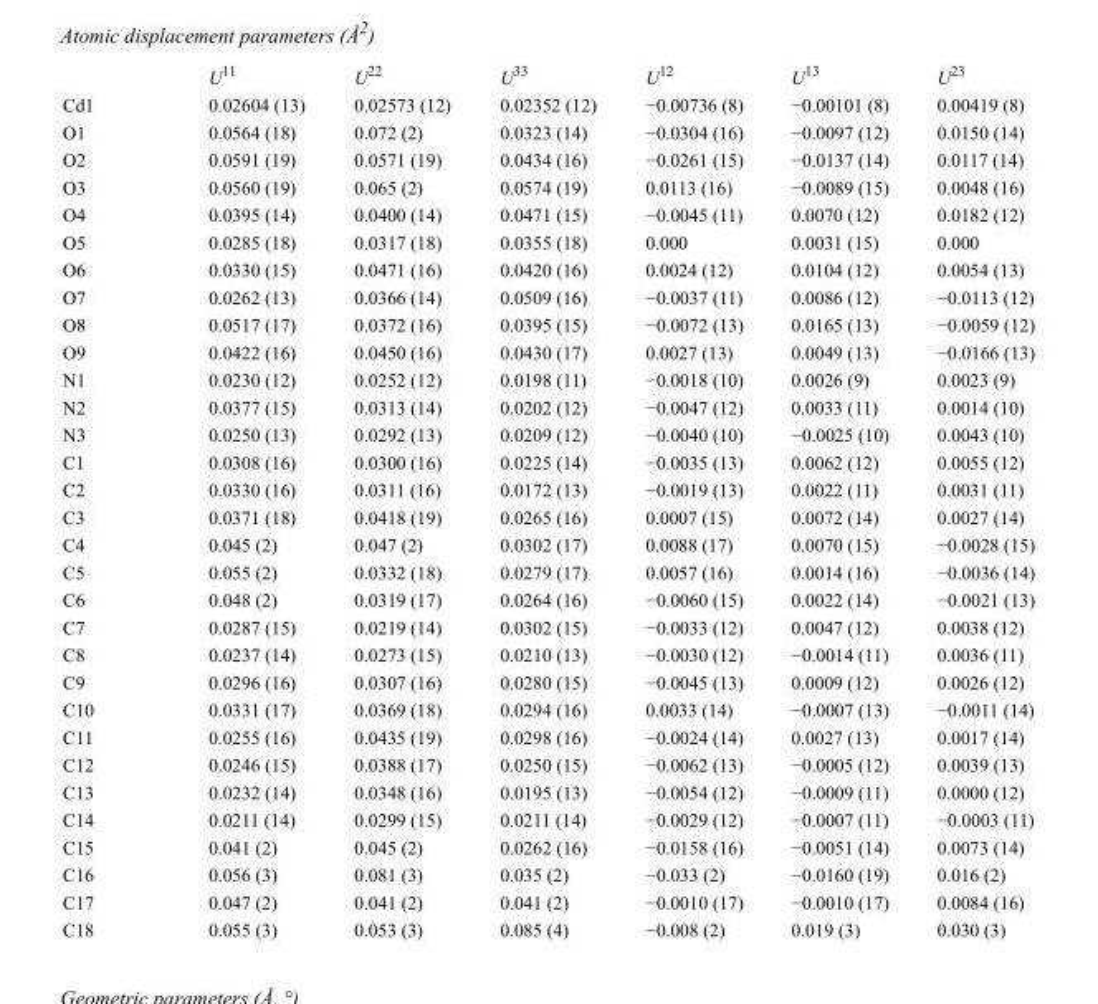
<table><thead><tr><td></td><td>U<sup>11</sup></td><td>U<sup>22</sup></td><td>U<sup>33</sup></td><td>U<sup>12</sup></td><td>U<sup>13</sup></td><td>U<sup>23</sup></td></tr></thead><tbody><tr><td>Cd1</td><td>0.02604 (13)</td><td>0.02573 (12)</td><td>0.02352 (12)</td><td>−0.00736 (8)</td><td>−0.00101 (8)</td><td>0.00419 (8)</td></tr><tr><td>O1</td><td>0.0564 (18)</td><td>0.072 (2)</td><td>0.0323 (14)</td><td>−0.0304 (16)</td><td>−0.0097 (12)</td><td>0.0150 (14)</td></tr><tr><td>O2</td><td>0.0591 (19)</td><td>0.0571 (19)</td><td>0.0434 (16)</td><td>−0.0261 (15)</td><td>−0.0137 (14)</td><td>0.0117 (14)</td></tr><tr><td>O3</td><td>0.0560 (19)</td><td>0.065 (2)</td><td>0.0574 (19)</td><td>0.0113 (16)</td><td>−0.0089 (15)</td><td>0.0048 (16)</td></tr><tr><td>O4</td><td>0.0395 (14)</td><td>0.0400 (14)</td><td>0.0471 (15)</td><td>−0.0045 (11)</td><td>0.0070 (12)</td><td>0.0182 (12)</td></tr><tr><td>O5</td><td>0.0285 (18)</td><td>0.0317 (18)</td><td>0.0355 (18)</td><td>0.000</td><td>0.0031 (15)</td><td>0.000</td></tr><tr><td>O6</td><td>0.0330 (15)</td><td>0.0471 (16)</td><td>0.0420 (16)</td><td>0.0024 (12)</td><td>0.0104 (12)</td><td>0.0054 (13)</td></tr><tr><td>O7</td><td>0.0262 (13)</td><td>0.0366 (14)</td><td>0.0509 (16)</td><td>−0.0037 (11)</td><td>0.0086 (12)</td><td>−0.0113 (12)</td></tr><tr><td>O8</td><td>0.0517 (17)</td><td>0.0372 (16)</td><td>0.0395 (15)</td><td>−0.0072 (13)</td><td>0.0165 (13)</td><td>−0.0059 (12)</td></tr><tr><td>O9</td><td>0.0422 (16)</td><td>0.0450 (16)</td><td>0.0430 (17)</td><td>0.0027 (13)</td><td>0.0049 (13)</td><td>−0.0166 (13)</td></tr><tr><td>N1</td><td>0.0230 (12)</td><td>0.0252 (12)</td><td>0.0198 (11)</td><td>−0.0018 (10)</td><td>0.0026 (9)</td><td>0.0023 (9)</td></tr><tr><td>N2</td><td>0.0377 (15)</td><td>0.0313 (14)</td><td>0.0202 (12)</td><td>−0.0047 (12)</td><td>0.0033 (11)</td><td>0.0014 (10)</td></tr><tr><td>N3</td><td>0.0250 (13)</td><td>0.0292 (13)</td><td>0.0209 (12)</td><td>−0.0040 (10)</td><td>−0.0025 (10)</td><td>0.0043 (10)</td></tr><tr><td>C1</td><td>0.0308 (16)</td><td>0.0300 (16)</td><td>0.0225 (14)</td><td>−0.0035 (13)</td><td>0.0062 (12)</td><td>0.0055 (12)</td></tr><tr><td>C2</td><td>0.0330 (16)</td><td>0.0311 (16)</td><td>0.0172 (13)</td><td>−0.0019 (13)</td><td>0.0022 (11)</td><td>0.0031 (11)</td></tr><tr><td>C3</td><td>0.0371 (18)</td><td>0.0418 (19)</td><td>0.0265 (16)</td><td>0.0007 (15)</td><td>0.0072 (14)</td><td>0.0027 (14)</td></tr><tr><td>C4</td><td>0.045 (2)</td><td>0.047 (2)</td><td>0.0302 (17)</td><td>0.0088 (17)</td><td>0.0070 (15)</td><td>−0.0028 (15)</td></tr><tr><td>C5</td><td>0.055 (2)</td><td>0.0332 (18)</td><td>0.0279 (17)</td><td>0.0057 (16)</td><td>0.0014 (16)</td><td>−0.0036 (14)</td></tr><tr><td>C6</td><td>0.048 (2)</td><td>0.0319 (17)</td><td>0.0264 (16)</td><td>−0.0060 (15)</td><td>0.0022 (14)</td><td>−0.0021 (13)</td></tr><tr><td>C7</td><td>0.0287 (15)</td><td>0.0219 (14)</td><td>0.0302 (15)</td><td>−0.0033 (12)</td><td>0.0047 (12)</td><td>0.0038 (12)</td></tr><tr><td>C8</td><td>0.0237 (14)</td><td>0.0273 (15)</td><td>0.0210 (13)</td><td>−0.0030 (12)</td><td>−0.0014 (11)</td><td>0.0036 (11)</td></tr><tr><td>C9</td><td>0.0296 (16)</td><td>0.0307 (16)</td><td>0.0280 (15)</td><td>−0.0045 (13)</td><td>0.0009 (12)</td><td>0.0026 (12)</td></tr><tr><td>C10</td><td>0.0331 (17)</td><td>0.0369 (18)</td><td>0.0294 (16)</td><td>0.0033 (14)</td><td>−0.0007 (13)</td><td>−0.0011 (14)</td></tr><tr><td>C11</td><td>0.0255 (16)</td><td>0.0435 (19)</td><td>0.0298 (16)</td><td>−0.0024 (14)</td><td>0.0027 (13)</td><td>0.0017 (14)</td></tr><tr><td>C12</td><td>0.0246 (15)</td><td>0.0388 (17)</td><td>0.0250 (15)</td><td>−0.0062 (13)</td><td>−0.0005 (12)</td><td>0.0039 (13)</td></tr><tr><td>C13</td><td>0.0232 (14)</td><td>0.0348 (16)</td><td>0.0195 (13)</td><td>−0.0054 (12)</td><td>−0.0009 (11)</td><td>0.0000 (12)</td></tr><tr><td>C14</td><td>0.0211 (14)</td><td>0.0299 (15)</td><td>0.0211 (14)</td><td>−0.0029 (12)</td><td>−0.0007 (11)</td><td>−0.0003 (11)</td></tr><tr><td>C15</td><td>0.041 (2)</td><td>0.045 (2)</td><td>0.0262 (16)</td><td>−0.0158 (16)</td><td>−0.0051 (14)</td><td>0.0073 (14)</td></tr><tr><td>C16</td><td>0.056 (3)</td><td>0.081 (3)</td><td>0.035 (2)</td><td>−0.033 (2)</td><td>−0.0160 (19)</td><td>0.016 (2)</td></tr><tr><td>C17</td><td>0.047 (2)</td><td>0.041 (2)</td><td>0.041 (2)</td><td>−0.0010 (17)</td><td>−0.0010 (17)</td><td>0.0084 (16)</td></tr><tr><td>C18</td><td>0.055 (3)</td><td>0.053 (3)</td><td>0.085 (4)</td><td>−0.008 (2)</td><td>0.019 (3)</td><td>0.030 (3)</td></tr></tbody></table>